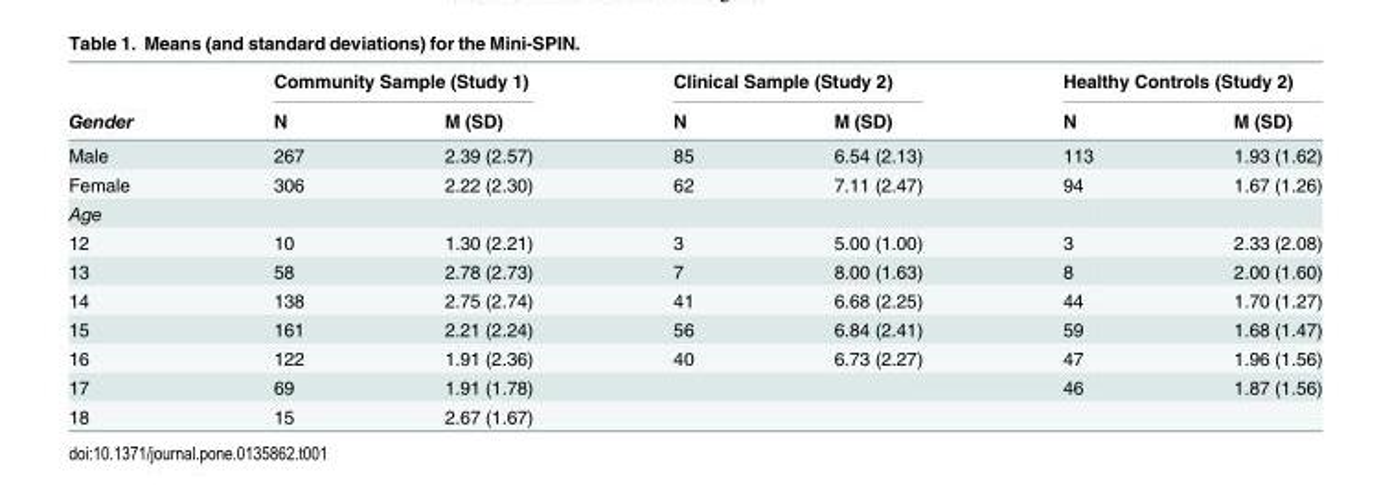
<table><thead><tr><td rowspan="2">Gender</td><td colspan="2">Community Sample (Study 1)</td><td colspan="2">Clinical Sample (Study 2)</td><td colspan="2">Healthy Controls (Study 2)</td></tr><tr><td>N</td><td>M (SD)</td><td>N</td><td>M (SD)</td><td>N</td><td>M (SD)</td></tr></thead><tbody><tr><td>Male</td><td>267</td><td>2.39 (2.57)</td><td>85</td><td>6.54 (2.13)</td><td>113</td><td>1.93 (1.62)</td></tr><tr><td>Female</td><td>306</td><td>2.22 (2.30)</td><td>62</td><td>7.11 (2.47)</td><td>94</td><td>1.67 (1.26)</td></tr><tr><td colspan="7">Age</td></tr><tr><td>12</td><td>10</td><td>1.30 (2.21)</td><td>3</td><td>5.00 (1.00)</td><td>3</td><td>2.33 (2.08)</td></tr><tr><td>13</td><td>58</td><td>2.78 (2.73)</td><td>7</td><td>8.00 (1.63)</td><td>8</td><td>2.00 (1.60)</td></tr><tr><td>14</td><td>138</td><td>2.75 (2.74)</td><td>41</td><td>6.68 (2.25)</td><td>44</td><td>1.70 (1.27)</td></tr><tr><td>15</td><td>161</td><td>2.21 (2.24)</td><td>56</td><td>6.84 (2.41)</td><td>59</td><td>1.68 (1.47)</td></tr><tr><td>16</td><td>122</td><td>1.91 (2.36)</td><td>40</td><td>6.73 (2.27)</td><td>47</td><td>1.96 (1.56)</td></tr><tr><td>17</td><td>69</td><td>1.91 (1.78)</td><td></td><td></td><td>46</td><td>1.87 (1.56)</td></tr><tr><td>18</td><td>15</td><td>2.67 (1.67)</td><td></td><td></td><td></td><td></td></tr></tbody></table>